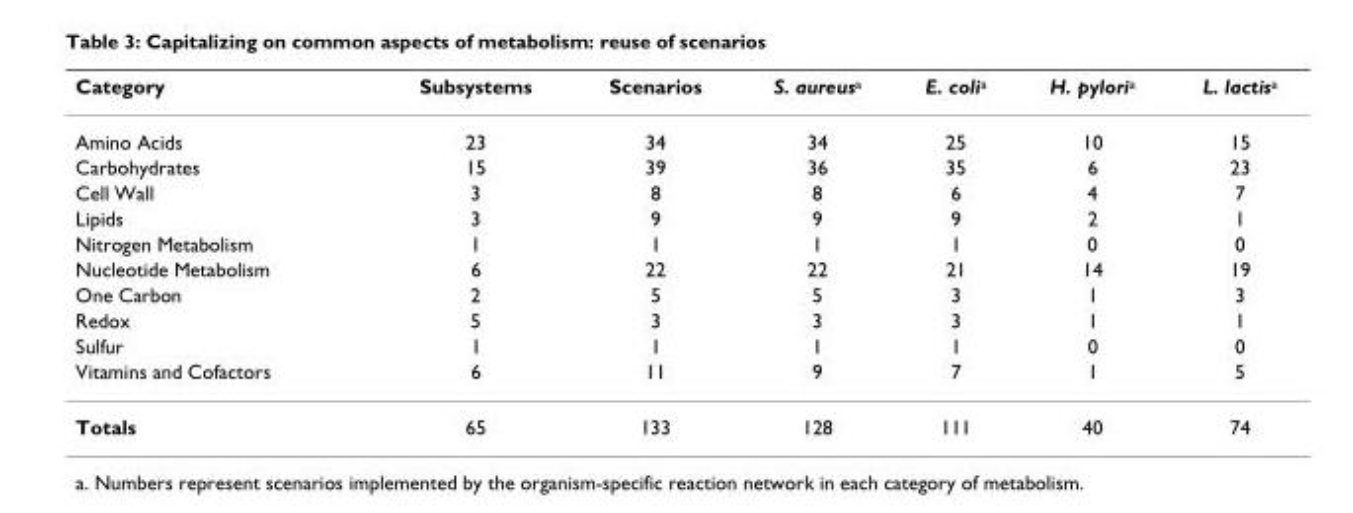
<table><thead><tr><td>Category</td><td>Subsystems</td><td>Scenarios</td><td>S. aureus<sup>a</sup></td><td>E. coli<sup>a</sup></td><td>H. pylori<sup>a</sup></td><td>L. lactis<sup>a</sup></td></tr></thead><tbody><tr><td>Amino Acids</td><td>23</td><td>34</td><td>34</td><td>25</td><td>10</td><td>15</td></tr><tr><td>Carbohydrates</td><td>15</td><td>39</td><td>36</td><td>35</td><td>6</td><td>23</td></tr><tr><td>Cell Wall</td><td>3</td><td>8</td><td>8</td><td>6</td><td>4</td><td>7</td></tr><tr><td>Lipids</td><td>3</td><td>9</td><td>9</td><td>9</td><td>2</td><td>1</td></tr><tr><td>Nitrogen Metabolism</td><td>1</td><td>1</td><td>1</td><td>1</td><td>0</td><td>0</td></tr><tr><td>Nucleotide Metabolism</td><td>6</td><td>22</td><td>22</td><td>21</td><td>14</td><td>19</td></tr><tr><td>One Carbon</td><td>2</td><td>5</td><td>5</td><td>3</td><td>1</td><td>3</td></tr><tr><td>Redox</td><td>5</td><td>3</td><td>3</td><td>3</td><td>1</td><td>1</td></tr><tr><td>Sulfur</td><td>1</td><td>1</td><td>1</td><td>1</td><td>0</td><td>0</td></tr><tr><td>Vitamins and Cofactors</td><td>6</td><td>11</td><td>9</td><td>7</td><td>1</td><td>5</td></tr><tr><td>Totals</td><td>65</td><td>133</td><td>128</td><td>111</td><td>40</td><td>74</td></tr></tbody></table>